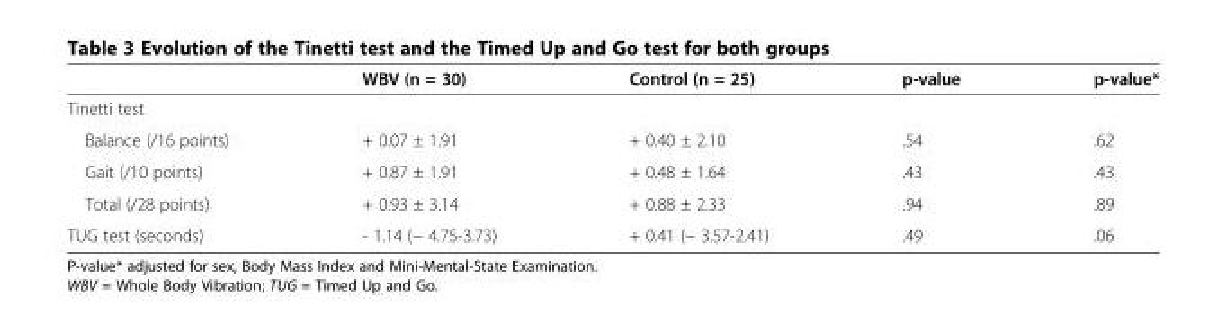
<table><thead><tr><td></td><td>WBV (n = 30)</td><td>Control (n = 25)</td><td>p-value</td><td>p-value*</td></tr></thead><tbody><tr><td colspan="5">Tinetti test</td></tr><tr><td>Balance (/16 points)</td><td>+ 0.07 ± 1.91</td><td>+ 0.40 ± 2.10</td><td>.54</td><td>.62</td></tr><tr><td>Gait (/10 points)</td><td>+ 0.87 ± 1.91</td><td>+ 0.48 ± 1.64</td><td>.43</td><td>.43</td></tr><tr><td>Total (/28 points)</td><td>+ 0.93 ± 3.14</td><td>+ 0.88 ± 2.33</td><td>.94</td><td>.89</td></tr><tr><td>TUG test (seconds)</td><td>- 1.14 (− 4.75-3.73)</td><td>+ 0.41 (− 3.57-2.41)</td><td>.49</td><td>.06</td></tr></tbody></table>